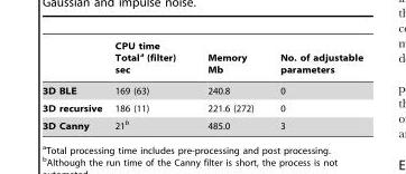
<table><thead><tr><td></td><td>CPU time Total<sup>a</sup> (filter) sec</td><td>Memory Mb</td><td>No. of adjustable parameters</td></tr></thead><tbody><tr><td>3D BLE</td><td>169 (63)</td><td>240.8</td><td>0</td></tr><tr><td>3D recursive</td><td>186 (11)</td><td>221.6 (272)</td><td>0</td></tr><tr><td>3D Canny</td><td>21<sup>b</sup></td><td>485.0</td><td>3</td></tr></tbody></table>